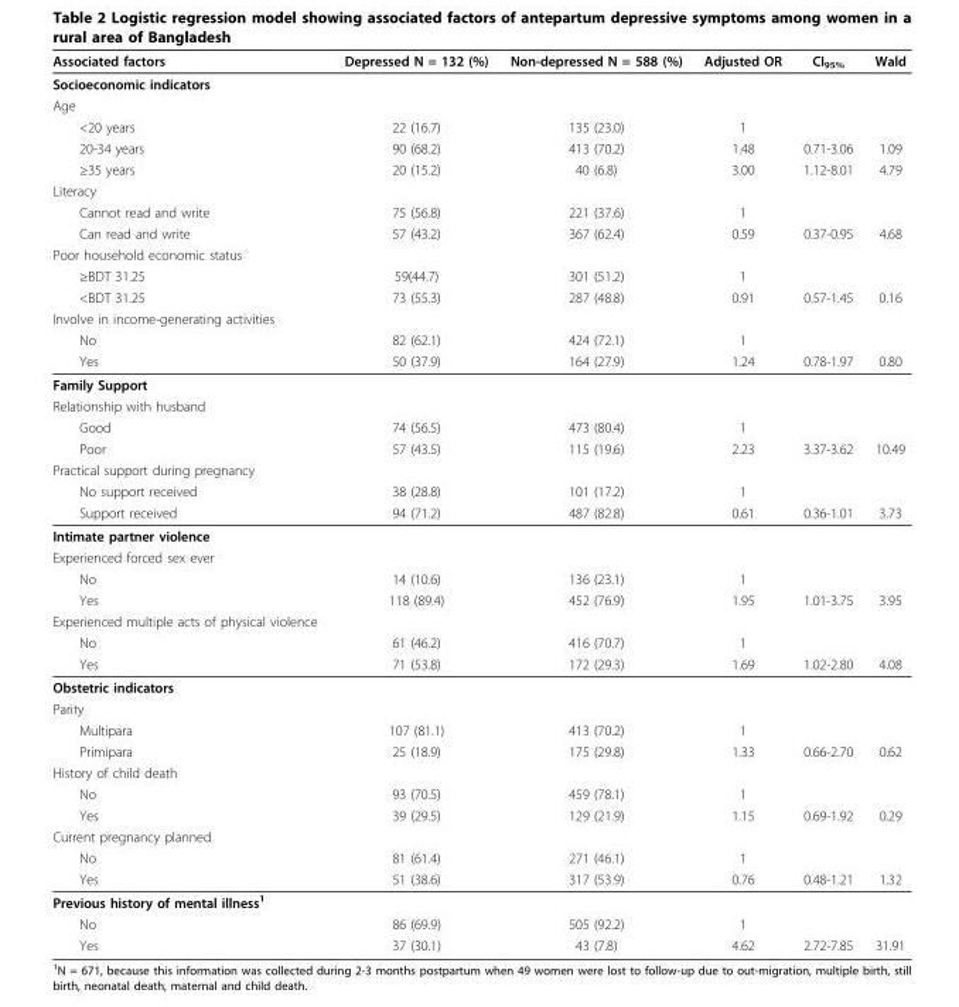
<table><thead><tr><td>Associated factors</td><td>Depressed N = 132 (%)</td><td>Non-depressed N = 588 (%)</td><td>Adjusted OR</td><td>CI<sub>95%</sub></td><td>Wald</td></tr></thead><tbody><tr><td colspan="6">Socioeconomic indicators</td></tr><tr><td colspan="6">Age</td></tr><tr><td>&lt;20 years</td><td>22 (16.7)</td><td>135 (23.0)</td><td>1</td><td></td><td></td></tr><tr><td>20-34 years</td><td>90 (68.2)</td><td>413 (70.2)</td><td>1.48</td><td>0.71-3.06</td><td>1.09</td></tr><tr><td>≥35 years</td><td>20 (15.2)</td><td>40 (6.8)</td><td>3.00</td><td>1.12-8.01</td><td>4.79</td></tr><tr><td colspan="6">Literacy</td></tr><tr><td>Cannot read and write</td><td>75 (56.8)</td><td>221 (37.6)</td><td>1</td><td></td><td></td></tr><tr><td>Can read and write</td><td>57 (43.2)</td><td>367 (62.4)</td><td>0.59</td><td>0.37-0.95</td><td>4.68</td></tr><tr><td colspan="6">Poor household economic status</td></tr><tr><td>≥BDT 31.25</td><td>59(44.7)</td><td>301 (51.2)</td><td>1</td><td></td><td></td></tr><tr><td>&lt;BDT 31.25</td><td>73 (55.3)</td><td>287 (48.8)</td><td>0.91</td><td>0.57-1.45</td><td>0.16</td></tr><tr><td colspan="6">Involve in income-generating activities</td></tr><tr><td>No</td><td>82 (62.1)</td><td>424 (72.1)</td><td>1</td><td></td><td></td></tr><tr><td>Yes</td><td>50 (37.9)</td><td>164 (27.9)</td><td>1.24</td><td>0.78-1.97</td><td>0.80</td></tr><tr><td colspan="6">Family Support</td></tr><tr><td colspan="6">Relationship with husband</td></tr><tr><td>Good</td><td>74 (56.5)</td><td>473 (80.4)</td><td>1</td><td></td><td></td></tr><tr><td>Poor</td><td>57 (43.5)</td><td>115 (19.6)</td><td>2.23</td><td>3.37-3.62</td><td>10.49</td></tr><tr><td colspan="6">Practical support during pregnancy</td></tr><tr><td>No support received</td><td>38 (28.8)</td><td>101 (17.2)</td><td>1</td><td></td><td></td></tr><tr><td>Support received</td><td>94 (71.2)</td><td>487 (82.8)</td><td>0.61</td><td>0.36-1.01</td><td>3.73</td></tr><tr><td colspan="6">Intimate partner violence</td></tr><tr><td colspan="6">Experienced forced sex ever</td></tr><tr><td>No</td><td>14 (10.6)</td><td>136 (23.1)</td><td>1</td><td></td><td></td></tr><tr><td>Yes</td><td>118 (89.4)</td><td>452 (76.9)</td><td>1.95</td><td>1.01-3.75</td><td>3.95</td></tr><tr><td colspan="6">Experienced multiple acts of physical violence</td></tr><tr><td>No</td><td>61 (46.2)</td><td>416 (70.7)</td><td>1</td><td></td><td></td></tr><tr><td>Yes</td><td>71 (53.8)</td><td>172 (29.3)</td><td>1.69</td><td>1.02-2.80</td><td>4.08</td></tr><tr><td colspan="6">Obstetric indicators</td></tr><tr><td colspan="6">Parity</td></tr><tr><td>Multipara</td><td>107 (81.1)</td><td>413 (70.2)</td><td>1</td><td></td><td></td></tr><tr><td>Primipara</td><td>25 (18.9)</td><td>175 (29.8)</td><td>1.33</td><td>0.66-2.70</td><td>0.62</td></tr><tr><td colspan="6">History of child death</td></tr><tr><td>No</td><td>93 (70.5)</td><td>459 (78.1)</td><td>1</td><td></td><td></td></tr><tr><td>Yes</td><td>39 (29.5)</td><td>129 (21.9)</td><td>1.15</td><td>0.69-1.92</td><td>0.29</td></tr><tr><td colspan="6">Current pregnancy planned</td></tr><tr><td>No</td><td>81 (61.4)</td><td>271 (46.1)</td><td>1</td><td></td><td></td></tr><tr><td>Yes</td><td>51 (38.6)</td><td>317 (53.9)</td><td>0.76</td><td>0.48-1.21</td><td>1.32</td></tr><tr><td colspan="6">Previous history of mental illness<sup>1</sup></td></tr><tr><td>No</td><td>86 (69.9)</td><td>505 (92.2)</td><td>1</td><td></td><td></td></tr><tr><td>Yes</td><td>37 (30.1)</td><td>43 (7.8)</td><td>4.62</td><td>2.72-7.85</td><td>31.91</td></tr></tbody></table>